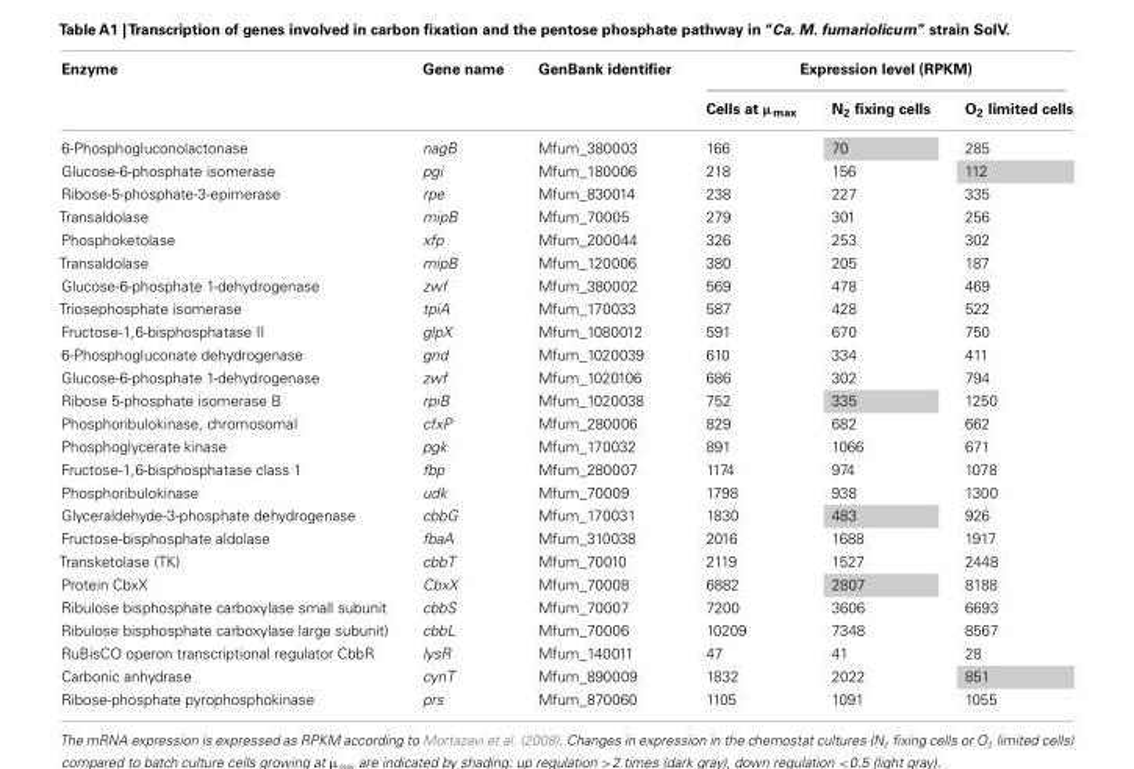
<table><thead><tr><td rowspan="2">Enzyme</td><td rowspan="2">Gene name</td><td rowspan="2">GenBank identifier</td><td colspan="3">Expression level (RPKM)</td></tr><tr><td>Cells at µ<sub>max</sub></td><td>N<sub>2</sub> fixing cells</td><td>O<sub>2</sub> limited cells</td></tr></thead><tbody><tr><td>6-Phosphogluconolactonase</td><td>nagB</td><td>Mfum_380003</td><td>166</td><td>70</td><td>285</td></tr><tr><td>Glucose-6-phosphate isomerase</td><td>pgi</td><td>Mfum_180006</td><td>218</td><td>156</td><td>112</td></tr><tr><td>Ribose-5-phosphate-3-epimerase</td><td>rpe</td><td>Mfum_830014</td><td>238</td><td>227</td><td>335</td></tr><tr><td>Transaldolase</td><td>mipB</td><td>Mfum_70005</td><td>279</td><td>301</td><td>256</td></tr><tr><td>Phosphoketolase</td><td>xfp</td><td>Mfum_200044</td><td>326</td><td>253</td><td>302</td></tr><tr><td>Transaldolase</td><td>mipB</td><td>Mfum_120006</td><td>380</td><td>205</td><td>187</td></tr><tr><td>Glucose-6-phosphate 1-dehydrogenase</td><td>zwf</td><td>Mfum_380002</td><td>569</td><td>478</td><td>469</td></tr><tr><td>Triosephosphate isomerase</td><td>tpiA</td><td>Mfum_170033</td><td>587</td><td>428</td><td>522</td></tr><tr><td>Fructose-1,6-bisphosphatase II</td><td>glpX</td><td>Mfum_1080012</td><td>591</td><td>670</td><td>750</td></tr><tr><td>6-Phosphogluconate dehydrogenase</td><td>gnd</td><td>Mfum_1020039</td><td>610</td><td>334</td><td>411</td></tr><tr><td>Glucose-6-phosphate 1-dehydrogenase</td><td>zwf</td><td>Mfum_1020106</td><td>686</td><td>302</td><td>794</td></tr><tr><td>Ribose 5-phosphate isomerase B</td><td>rpiB</td><td>Mfum_1020038</td><td>752</td><td>335</td><td>1250</td></tr><tr><td>Phosphoribulokinase, chromosomal</td><td>cfxP</td><td>Mfum_280006</td><td>829</td><td>682</td><td>662</td></tr><tr><td>Phosphoglycerate kinase</td><td>pgk</td><td>Mfum_170032</td><td>891</td><td>1066</td><td>671</td></tr><tr><td>Fructose-1,6-bisphosphatase class 1</td><td>fbp</td><td>Mfum_280007</td><td>1174</td><td>974</td><td>1078</td></tr><tr><td>Phosphoribulokinase</td><td>udk</td><td>Mfum_70009</td><td>1798</td><td>938</td><td>1300</td></tr><tr><td>Glyceraldehyde-3-phosphate dehydrogenase</td><td>cbbG</td><td>Mfum_170031</td><td>1830</td><td>483</td><td>926</td></tr><tr><td>Fructose-bisphosphate aldolase</td><td>fbaA</td><td>Mfum_310038</td><td>2016</td><td>1688</td><td>1917</td></tr><tr><td>Transketolase (TK)</td><td>cbbT</td><td>Mfum_70010</td><td>2119</td><td>1527</td><td>2448</td></tr><tr><td>Protein CbxX</td><td>CbxX</td><td>Mfum_70008</td><td>6882</td><td>2807</td><td>8188</td></tr><tr><td>Ribulose bisphosphate carboxylase small subunit</td><td>cbbS</td><td>Mfum_70007</td><td>7200</td><td>3606</td><td>6693</td></tr><tr><td>Ribulose bisphosphate carboxylase large subunit)</td><td>cbbL</td><td>Mfum_70006</td><td>10209</td><td>7348</td><td>8567</td></tr><tr><td>RuBisCO operon transcriptional regulator CbbR</td><td>lysR</td><td>Mfum_140011</td><td>47</td><td>41</td><td>28</td></tr><tr><td>Carbonic anhydrase</td><td>cynT</td><td>Mfum_890009</td><td>1832</td><td>2022</td><td>851</td></tr><tr><td>Ribose-phosphate pyrophosphokinase</td><td>prs</td><td>Mfum_870060</td><td>1105</td><td>1091</td><td>1055</td></tr></tbody></table>